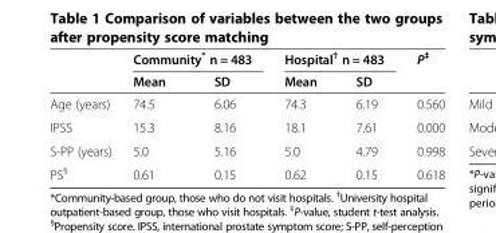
<table><thead><tr><td rowspan="2"></td><td colspan="2">Community* n = 483</td><td colspan="2">Hospital<sup>†</sup> n = 483</td><td rowspan="2">P<sup>‡</sup></td></tr><tr><td>Mean</td><td>SD</td><td>Mean</td><td>SD</td></tr></thead><tbody><tr><td>Age (years)</td><td>74.5</td><td>6.06</td><td>74.3</td><td>6.19</td><td>0.560</td></tr><tr><td>IPSS</td><td>15.3</td><td>8.16</td><td>18.1</td><td>7.61</td><td>0.000</td></tr><tr><td>S-PP (years)</td><td>5.0</td><td>5.16</td><td>5.0</td><td>4.79</td><td>0.998</td></tr><tr><td>PS<sup>§</sup></td><td>0.61</td><td>0.15</td><td>0.62</td><td>0.15</td><td>0.618</td></tr></tbody></table>